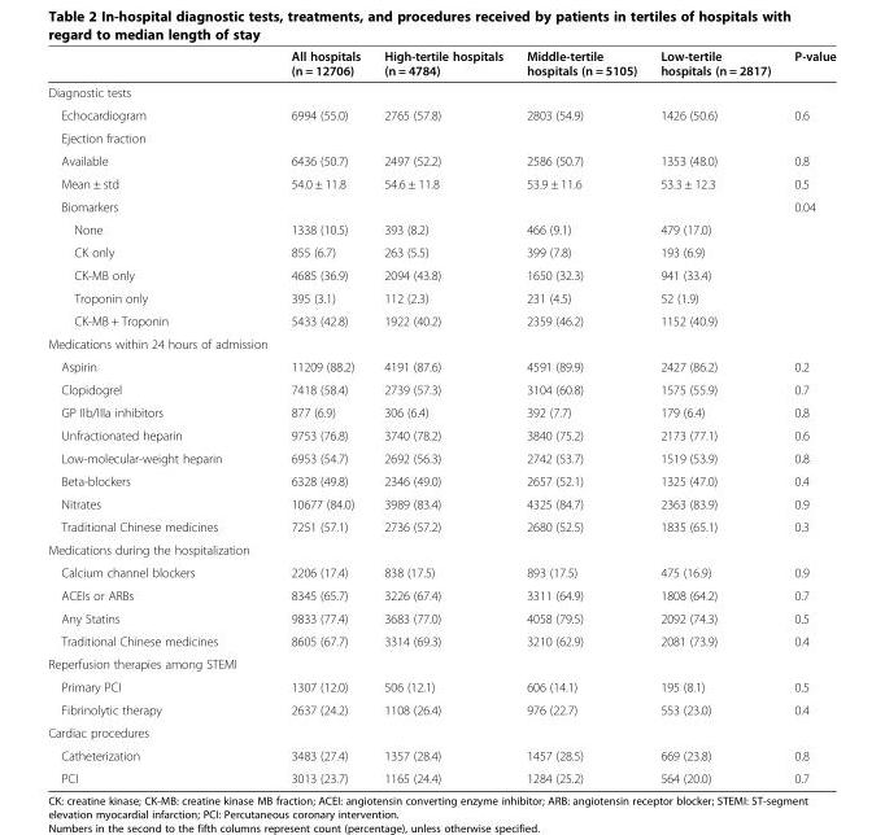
<table><thead><tr><td></td><td>All hospitals (n = 12706)</td><td>High-tertile hospitals (n = 4784)</td><td>Middle-tertile hospitals (n = 5105)</td><td>Low-tertile hospitals (n = 2817)</td><td>P-value</td></tr></thead><tbody><tr><td colspan="6">Diagnostic tests</td></tr><tr><td>Echocardiogram</td><td>6994 (55.0)</td><td>2765 (57.8)</td><td>2803 (54.9)</td><td>1426 (50.6)</td><td>0.6</td></tr><tr><td colspan="6">Ejection fraction</td></tr><tr><td>Available</td><td>6436 (50.7)</td><td>2497 (52.2)</td><td>2586 (50.7)</td><td>1353 (48.0)</td><td>0.8</td></tr><tr><td>Mean ± std</td><td>54.0 ± 11.8</td><td>54.6 ± 11.8</td><td>53.9 ± 11.6</td><td>53.3 ± 12.3</td><td>0.5</td></tr><tr><td>Biomarkers</td><td></td><td></td><td></td><td></td><td>0.04</td></tr><tr><td>None</td><td>1338 (10.5)</td><td>393 (8.2)</td><td>466 (9.1)</td><td>479 (17.0)</td><td></td></tr><tr><td>CK only</td><td>855 (6.7)</td><td>263 (5.5)</td><td>399 (7.8)</td><td>193 (6.9)</td><td></td></tr><tr><td>CK-MB only</td><td>4685 (36.9)</td><td>2094 (43.8)</td><td>1650 (32.3)</td><td>941 (33.4)</td><td></td></tr><tr><td>Troponin only</td><td>395 (3.1)</td><td>112 (2.3)</td><td>231 (4.5)</td><td>52 (1.9)</td><td></td></tr><tr><td>CK-MB + Troponin</td><td>5433 (42.8)</td><td>1922 (40.2)</td><td>2359 (46.2)</td><td>1152 (40.9)</td><td></td></tr><tr><td colspan="6">Medications within 24 hours of admission</td></tr><tr><td>Aspirin</td><td>11209 (88.2)</td><td>4191 (87.6)</td><td>4591 (89.9)</td><td>2427 (86.2)</td><td>0.2</td></tr><tr><td>Clopidogrel</td><td>7418 (58.4)</td><td>2739 (57.3)</td><td>3104 (60.8)</td><td>1575 (55.9)</td><td>0.7</td></tr><tr><td>GP IIb/IIIa inhibitors</td><td>877 (6.9)</td><td>306 (6.4)</td><td>392 (7.7)</td><td>179 (6.4)</td><td>0.8</td></tr><tr><td>Unfractionated heparin</td><td>9753 (76.8)</td><td>3740 (78.2)</td><td>3840 (75.2)</td><td>2173 (77.1)</td><td>0.6</td></tr><tr><td>Low-molecular-weight heparin</td><td>6953 (54.7)</td><td>2692 (56.3)</td><td>2742 (53.7)</td><td>1519 (53.9)</td><td>0.8</td></tr><tr><td>Beta-blockers</td><td>6328 (49.8)</td><td>2346 (49.0)</td><td>2657 (52.1)</td><td>1325 (47.0)</td><td>0.4</td></tr><tr><td>Nitrates</td><td>10677 (84.0)</td><td>3989 (83.4)</td><td>4325 (84.7)</td><td>2363 (83.9)</td><td>0.9</td></tr><tr><td>Traditional Chinese medicines</td><td>7251 (57.1)</td><td>2736 (57.2)</td><td>2680 (52.5)</td><td>1835 (65.1)</td><td>0.3</td></tr><tr><td colspan="6">Medications during the hospitalization</td></tr><tr><td>Calcium channel blockers</td><td>2206 (17.4)</td><td>838 (17.5)</td><td>893 (17.5)</td><td>475 (16.9)</td><td>0.9</td></tr><tr><td>ACEIs or ARBs</td><td>8345 (65.7)</td><td>3226 (67.4)</td><td>3311 (64.9)</td><td>1808 (64.2)</td><td>0.7</td></tr><tr><td>Any Statins</td><td>9833 (77.4)</td><td>3683 (77.0)</td><td>4058 (79.5)</td><td>2092 (74.3)</td><td>0.5</td></tr><tr><td>Traditional Chinese medicines</td><td>8605 (67.7)</td><td>3314 (69.3)</td><td>3210 (62.9)</td><td>2081 (73.9)</td><td>0.4</td></tr><tr><td colspan="6">Reperfusion therapies among STEMI</td></tr><tr><td>Primary PCI</td><td>1307 (12.0)</td><td>506 (12.1)</td><td>606 (14.1)</td><td>195 (8.1)</td><td>0.5</td></tr><tr><td>Fibrinolytic therapy</td><td>2637 (24.2)</td><td>1108 (26.4)</td><td>976 (22.7)</td><td>553 (23.0)</td><td>0.4</td></tr><tr><td colspan="6">Cardiac procedures</td></tr><tr><td>Catheterization</td><td>3483 (27.4)</td><td>1357 (28.4)</td><td>1457 (28.5)</td><td>669 (23.8)</td><td>0.8</td></tr><tr><td>PCI</td><td>3013 (23.7)</td><td>1165 (24.4)</td><td>1284 (25.2)</td><td>564 (20.0)</td><td>0.7</td></tr></tbody></table>